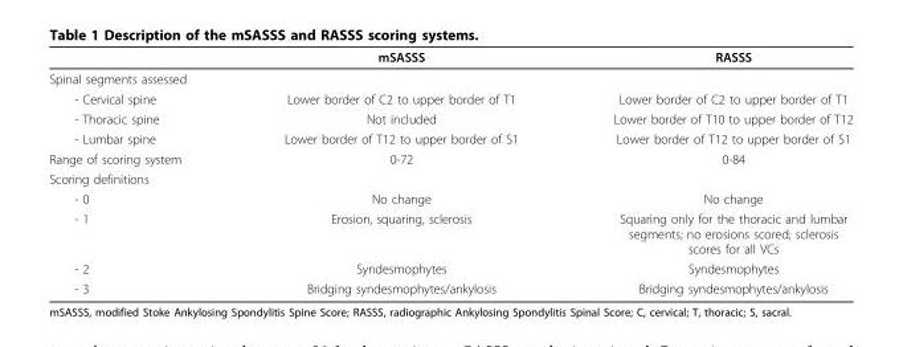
<table><thead><tr><td></td><td>mSASSS</td><td>RASSS</td></tr></thead><tbody><tr><td colspan="3">Spinal segments assessed</td></tr><tr><td>- Cervical spine</td><td>Lower border of C2 to upper border of T1</td><td>Lower border of C2 to upper border of T1</td></tr><tr><td>- Thoracic spine</td><td>Not included</td><td>Lower border of T10 to upper border of T12</td></tr><tr><td>- Lumbar spine</td><td>Lower border of T12 to upper border of S1</td><td>Lower border of T12 to upper border of S1</td></tr><tr><td>Range of scoring system</td><td>0-72</td><td>0-84</td></tr><tr><td colspan="3">Scoring definitions</td></tr><tr><td>- 0</td><td>No change</td><td>No change</td></tr><tr><td>- 1</td><td>Erosion, squaring, sclerosis</td><td>Squaring only for the thoracic and lumbar segments; no erosions scored; sclerosis scores for all VCs</td></tr><tr><td>- 2</td><td>Syndesmophytes</td><td>Syndesmophytes</td></tr><tr><td>- 3</td><td>Bridging syndesmophytes/ankylosis</td><td>Bridging syndesmophytes/ankylosis</td></tr></tbody></table>